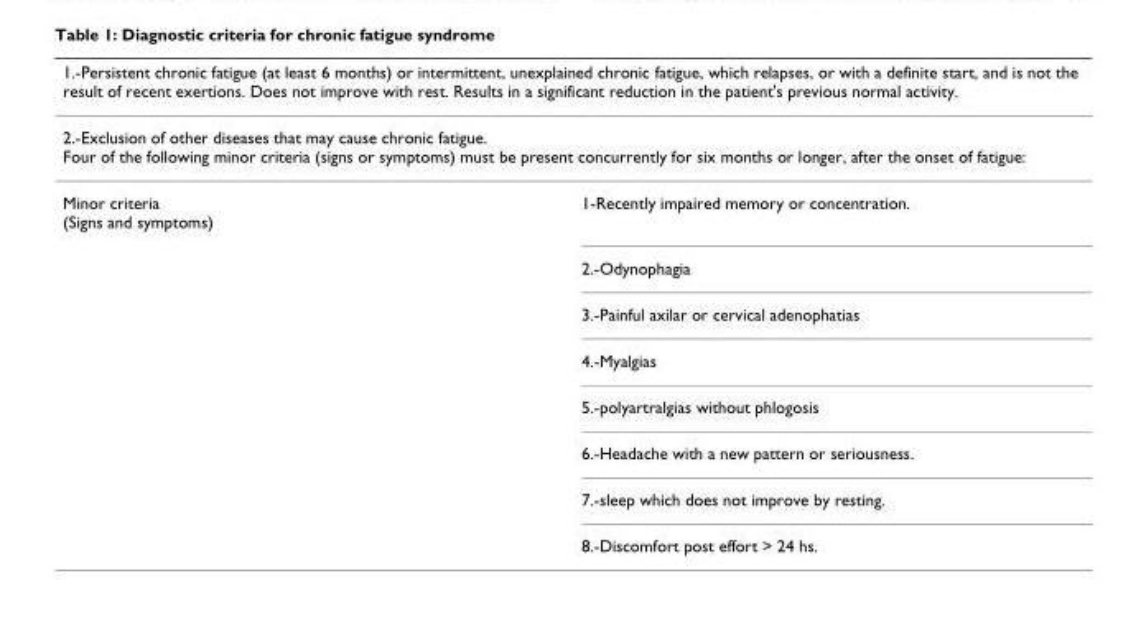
<table><thead><tr><td rowspan="2" colspan="2">1.-Persistent chronic fatigue (at least 6 months) or intermittent, unexplained chronic fatigue, which relapses, or with a definite start, and is not the result of recent exertions. Does not improve with rest. Results in a significant reduction in the patient&#x27;s previous normal activity. 2.-Exclusion of other diseases that may cause chronic fatigue. Four of the following minor criteria (signs or symptoms) must be present concurrently for six months or longer, after the onset of fatigue:</td></tr><tr></tr><tr><td>Minor criteria (Signs and symptoms)</td><td>1-Recently impaired memory or concentration.</td></tr></thead><tbody><tr><td></td><td>2.-Odynophagia</td></tr><tr><td></td><td>3.-Painful axilar or cervical adenophatias</td></tr><tr><td></td><td>4.-Myalgias</td></tr><tr><td></td><td>5.-polyartralgias without phlogosis</td></tr><tr><td></td><td>6.-Headache with a new pattern or seriousness.</td></tr><tr><td></td><td>7.-sleep which does not improve by resting.</td></tr><tr><td></td><td>8.-Discomfort post effort &gt; 24 hs.</td></tr></tbody></table>